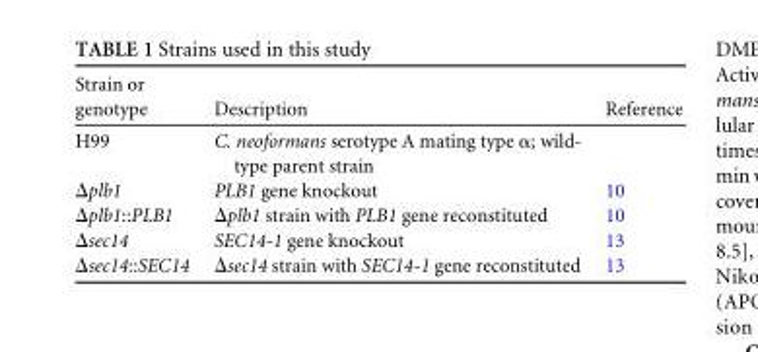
<table><thead><tr><td>Strain or genotype</td><td>Description</td><td>Reference</td></tr></thead><tbody><tr><td>H99</td><td>C. neoformans serotype A mating type α; wild- type parent strain</td><td></td></tr><tr><td>Δplb1</td><td>PLB1 gene knockout</td><td>10</td></tr><tr><td>Δplb1::PLB1</td><td>Δplb1 strain with PLB1 gene reconstituted</td><td>10</td></tr><tr><td>Δsec14</td><td>SEC14-1 gene knockout</td><td>13</td></tr><tr><td>Δsec14::SEC14</td><td>Δsec14 strain with SEC14-1 gene reconstituted</td><td>13</td></tr></tbody></table>